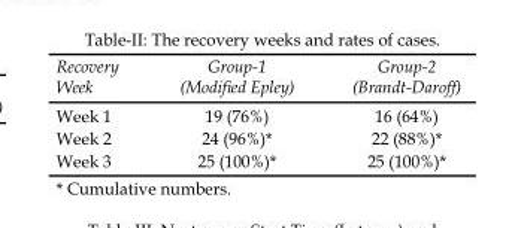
<table><thead><tr><td>Recovery Week</td><td>Group-1 (Modified Epley)</td><td>Group-2 (Brandt-Daroff)</td></tr></thead><tbody><tr><td>Week 1</td><td>19 (76%)</td><td>16 (64%)</td></tr><tr><td>Week 2</td><td>24 (96%)*</td><td>22 (88%)*</td></tr><tr><td>Week 3</td><td>25 (100%)*</td><td>25 (100%)*</td></tr></tbody></table>